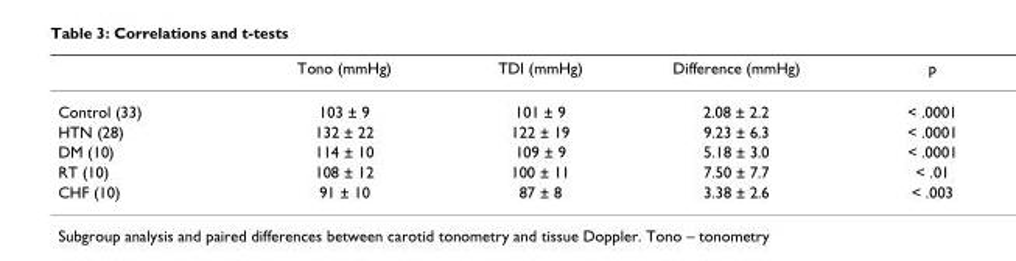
<table><thead><tr><td></td><td>Tono (mmHg)</td><td>TDI (mmHg)</td><td>Difference (mmHg)</td><td>p</td></tr></thead><tbody><tr><td>Control (33)</td><td>103 ± 9</td><td>101 ± 9</td><td>2.08 ± 2.2</td><td>&lt; .0001</td></tr><tr><td>HTN (28)</td><td>132 ± 22</td><td>122 ± 19</td><td>9.23 ± 6.3</td><td>&lt; .0001</td></tr><tr><td>DM (10)</td><td>114 ± 10</td><td>109 ± 9</td><td>5.18 ± 3.0</td><td>&lt; .0001</td></tr><tr><td>RT (10)</td><td>108 ± 12</td><td>100 ± 11</td><td>7.50 ± 7.7</td><td>&lt; .01</td></tr><tr><td>CHF (10)</td><td>91 ± 10</td><td>87 ± 8</td><td>3.38 ± 2.6</td><td>&lt; .003</td></tr></tbody></table>